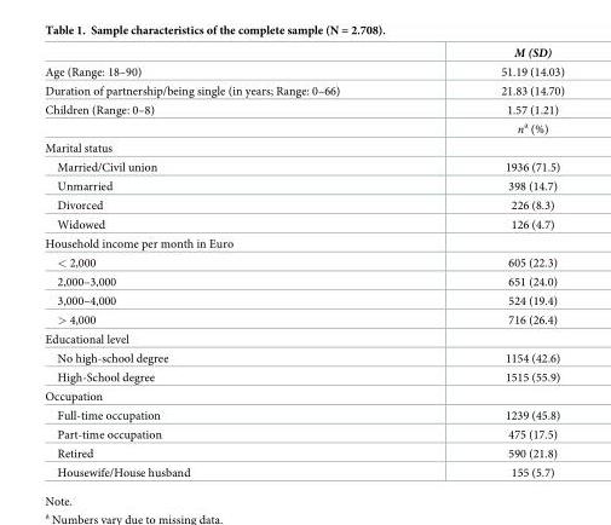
<table><thead><tr><td></td><td>M (SD)</td></tr></thead><tbody><tr><td>Age (Range: 18–90)</td><td>51.19 (14.03)</td></tr><tr><td>Duration of partnership/being single (in years; Range: 0–66)</td><td>21.83 (14.70)</td></tr><tr><td rowspan="2">Children (Range: 0–8)</td><td>1.57 (1.21)</td></tr><tr><td>n<sup>a</sup> (%)</td></tr><tr><td colspan="2">Marital status</td></tr><tr><td>Married/Civil union</td><td>1936 (71.5)</td></tr><tr><td>Unmarried</td><td>398 (14.7)</td></tr><tr><td>Divorced</td><td>226 (8.3)</td></tr><tr><td>Widowed</td><td>126 (4.7)</td></tr><tr><td colspan="2">Household income per month in Euro</td></tr><tr><td>&lt; 2,000</td><td>605 (22.3)</td></tr><tr><td>2,000–3,000</td><td>651 (24.0)</td></tr><tr><td>3,000–4,000</td><td>524 (19.4)</td></tr><tr><td>&gt; 4,000</td><td>716 (26.4)</td></tr><tr><td colspan="2">Educational level</td></tr><tr><td>No high-school degree</td><td>1154 (42.6)</td></tr><tr><td>High-School degree</td><td>1515 (55.9)</td></tr><tr><td colspan="2">Occupation</td></tr><tr><td>Full-time occupation</td><td>1239 (45.8)</td></tr><tr><td>Part-time occupation</td><td>475 (17.5)</td></tr><tr><td>Retired</td><td>590 (21.8)</td></tr><tr><td>Housewife/House husband</td><td>155 (5.7)</td></tr></tbody></table>